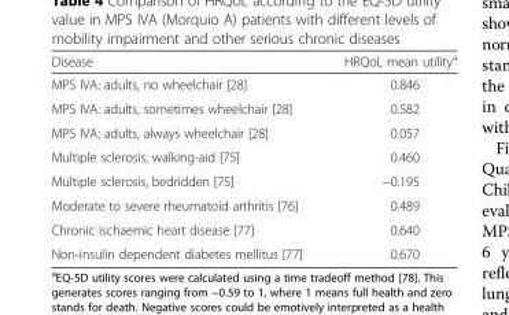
<table><thead><tr><td>Disease</td><td>HRQoL mean utility<sup>a</sup></td></tr></thead><tbody><tr><td>MPS IVA: adults, no wheelchair [28]</td><td>0.846</td></tr><tr><td>MPS IVA: adults, sometimes wheelchair [28]</td><td>0.582</td></tr><tr><td>MPS IVA: adults, always wheelchair [28]</td><td>0.057</td></tr><tr><td>Multiple sclerosis, walking-aid [75]</td><td>0.460</td></tr><tr><td>Multiple sclerosis, bedridden [75]</td><td>−0.195</td></tr><tr><td>Moderate to severe rheumatoid arthritis [76]</td><td>0.489</td></tr><tr><td>Chronic ischaemic heart disease [77]</td><td>0.640</td></tr><tr><td>Non-insulin dependent diabetes mellitus [77]</td><td>0.670</td></tr></tbody></table>